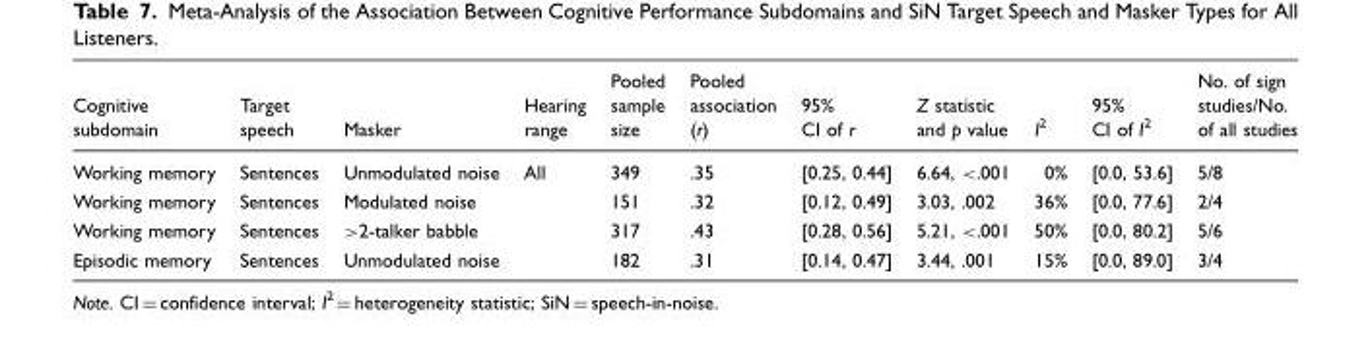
<table><thead><tr><td>Cognitive subdomain</td><td>Target speech</td><td>Masker</td><td>Hearing range</td><td>Pooled sample size</td><td>Pooled association (r)</td><td>95% CI of r</td><td>Z statistic and p value</td><td>I<sup>2</sup></td><td>95% CI of I<sup>2</sup></td><td>No. of sign studies/No. of all studies</td></tr></thead><tbody><tr><td>Working memory</td><td>Sentences</td><td>Unmodulated noise</td><td rowspan="4">All</td><td>349</td><td>.35</td><td>[0.25, 0.44]</td><td>6.64, &lt;.001</td><td>0%</td><td>[0.0, 53.6]</td><td>5/8</td></tr><tr><td>Working memory</td><td>Sentences</td><td>Modulated noise</td><td>151</td><td>.32</td><td>[0.12, 0.49]</td><td>3.03, .002</td><td>36%</td><td>[0.0, 77.6]</td><td>2/4</td></tr><tr><td>Working memory</td><td>Sentences</td><td>&gt;2-talker babble</td><td>317</td><td>.43</td><td>[0.28, 0.56]</td><td>5.21, &lt;.001</td><td>50%</td><td>[0.0, 80.2]</td><td>5/6</td></tr><tr><td>Episodic memory</td><td>Sentences</td><td>Unmodulated noise</td><td>182</td><td>.31</td><td>[0.14, 0.47]</td><td>3.44, .001</td><td>15%</td><td>[0.0, 89.0]</td><td>3/4</td></tr></tbody></table>